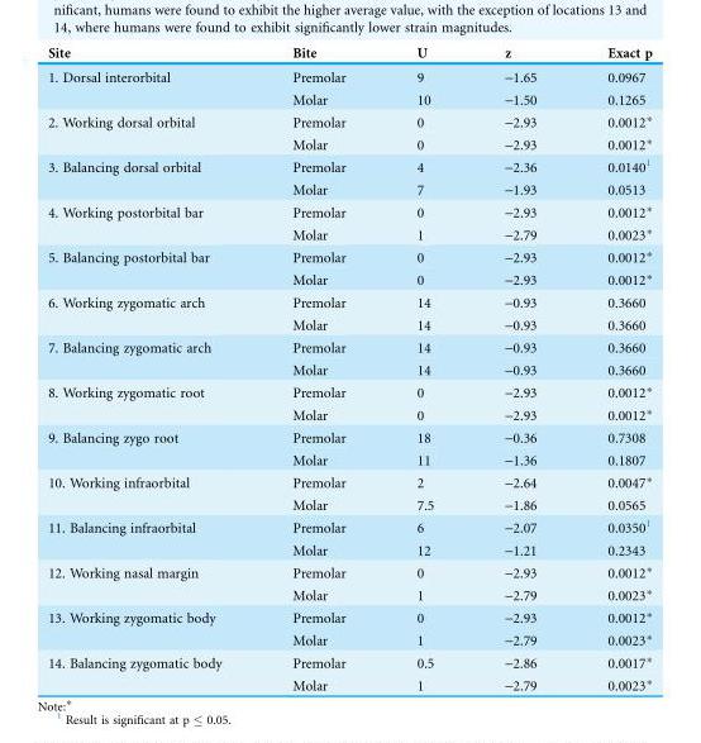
<table><thead><tr><td>Site</td><td>Bite</td><td>U</td><td>z</td><td>Exact p</td></tr></thead><tbody><tr><td rowspan="2">1. Dorsal interorbital</td><td>Premolar</td><td>9</td><td>-1.65</td><td>0.0967</td></tr><tr><td>Molar</td><td>10</td><td>-1.50</td><td>0.1265</td></tr><tr><td rowspan="2">2. Working dorsal orbital</td><td>Premolar</td><td>0</td><td>-2.93</td><td>0.0012*</td></tr><tr><td>Molar</td><td>0</td><td>-2.93</td><td>0.0012*</td></tr><tr><td rowspan="2">3. Balancing dorsal orbital</td><td>Premolar</td><td>4</td><td>-2.36</td><td>0.0140<sup>1</sup></td></tr><tr><td>Molar</td><td>7</td><td>-1.93</td><td>0.0513</td></tr><tr><td rowspan="2">4. Working postorbital bar</td><td>Premolar</td><td>0</td><td>-2.93</td><td>0.0012*</td></tr><tr><td>Molar</td><td>1</td><td>-2.79</td><td>0.0023*</td></tr><tr><td rowspan="2">5. Balancing postorbital bar</td><td>Premolar</td><td>0</td><td>-2.93</td><td>0.0012*</td></tr><tr><td>Molar</td><td>0</td><td>-2.93</td><td>0.0012*</td></tr><tr><td rowspan="2">6. Working zygomatic arch</td><td>Premolar</td><td>14</td><td>-0.93</td><td>0.3660</td></tr><tr><td>Molar</td><td>14</td><td>-0.93</td><td>0.3660</td></tr><tr><td rowspan="2">7. Balancing zygomatic arch</td><td>Premolar</td><td>14</td><td>-0.93</td><td>0.3660</td></tr><tr><td>Molar</td><td>14</td><td>-0.93</td><td>0.3660</td></tr><tr><td rowspan="2">8. Working zygomatic root</td><td>Premolar</td><td>0</td><td>-2.93</td><td>0.0012*</td></tr><tr><td>Molar</td><td>0</td><td>-2.93</td><td>0.0012*</td></tr><tr><td rowspan="2">9. Balancing zygo root</td><td>Premolar</td><td>18</td><td>-0.36</td><td>0.7308</td></tr><tr><td>Molar</td><td>11</td><td>-1.36</td><td>0.1807</td></tr><tr><td rowspan="2">10. Working infraorbital</td><td>Premolar</td><td>2</td><td>-2.64</td><td>0.0047*</td></tr><tr><td>Molar</td><td>7.5</td><td>-1.86</td><td>0.0565</td></tr><tr><td rowspan="2">11. Balancing infraorbital</td><td>Premolar</td><td>6</td><td>-2.07</td><td>0.0350<sup>1</sup></td></tr><tr><td>Molar</td><td>12</td><td>-1.21</td><td>0.2343</td></tr><tr><td rowspan="2">12. Working nasal margin</td><td>Premolar</td><td>0</td><td>-2.93</td><td>0.0012*</td></tr><tr><td>Molar</td><td>1</td><td>-2.79</td><td>0.0023*</td></tr><tr><td rowspan="2">13. Working zygomatic body</td><td>Premolar</td><td>0</td><td>-2.93</td><td>0.0012*</td></tr><tr><td>Molar</td><td>1</td><td>-2.79</td><td>0.0023*</td></tr><tr><td rowspan="2">14. Balancing zygomatic body</td><td>Premolar</td><td>0.5</td><td>-2.86</td><td>0.0017*</td></tr><tr><td>Molar</td><td>1</td><td>-2.79</td><td>0.0023*</td></tr></tbody></table>